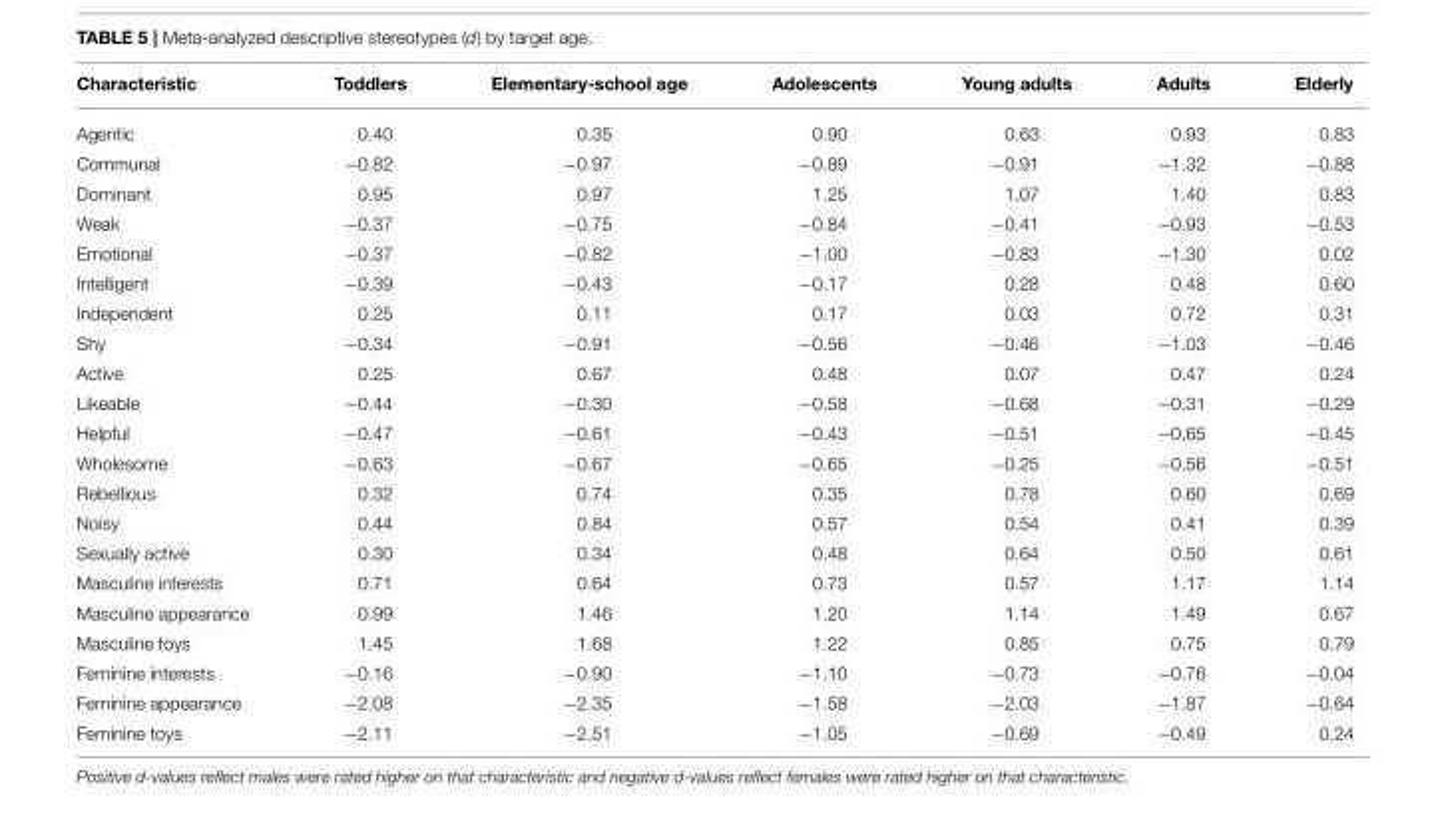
<table><thead><tr><td>Characteristic</td><td>Toddlers</td><td>Elementary-school age</td><td>Adolescents</td><td>Young adults</td><td>Adults</td><td>Elderly</td></tr></thead><tbody><tr><td>Agentic</td><td>0.40</td><td>0.35</td><td>0.90</td><td>0.63</td><td>0.93</td><td>0.83</td></tr><tr><td>Communal</td><td>−0.82</td><td>−0.97</td><td>−0.89</td><td>−0.91</td><td>−1.32</td><td>−0.88</td></tr><tr><td>Dominant</td><td>0.95</td><td>0.97</td><td>1.25</td><td>1.07</td><td>1.40</td><td>0.83</td></tr><tr><td>Weak</td><td>−0.37</td><td>−0.75</td><td>−0.84</td><td>−0.41</td><td>−0.93</td><td>−0.53</td></tr><tr><td>Emotional</td><td>−0.37</td><td>−0.82</td><td>−1.00</td><td>−0.83</td><td>−1.30</td><td>0.02</td></tr><tr><td>Intelligent</td><td>−0.39</td><td>−0.43</td><td>−0.17</td><td>0.28</td><td>0.48</td><td>0.60</td></tr><tr><td>Independent</td><td>0.25</td><td>0.11</td><td>0.17</td><td>0.03</td><td>0.72</td><td>0.31</td></tr><tr><td>Shy</td><td>−0.34</td><td>−0.91</td><td>−0.56</td><td>−0.46</td><td>−1.03</td><td>−0.46</td></tr><tr><td>Active</td><td>0.25</td><td>0.67</td><td>0.48</td><td>0.07</td><td>0.47</td><td>0.24</td></tr><tr><td>Likeable</td><td>−0.44</td><td>−0.30</td><td>−0.58</td><td>−0.68</td><td>−0.31</td><td>−0.29</td></tr><tr><td>Helpful</td><td>−0.47</td><td>−0.61</td><td>−0.43</td><td>−0.51</td><td>−0.65</td><td>−0.45</td></tr><tr><td>Wholesome</td><td>−0.63</td><td>−0.67</td><td>−0.65</td><td>−0.25</td><td>−0.56</td><td>−0.51</td></tr><tr><td>Rebellious</td><td>0.32</td><td>0.74</td><td>0.35</td><td>0.78</td><td>0.60</td><td>0.69</td></tr><tr><td>Noisy</td><td>0.44</td><td>0.84</td><td>0.57</td><td>0.54</td><td>0.41</td><td>0.39</td></tr><tr><td>Sexually active</td><td>0.30</td><td>0.34</td><td>0.48</td><td>0.64</td><td>0.50</td><td>0.61</td></tr><tr><td>Masculine interests</td><td>0.71</td><td>0.64</td><td>0.73</td><td>0.57</td><td>1.17</td><td>1.14</td></tr><tr><td>Masculine appearance</td><td>0.99</td><td>1.46</td><td>1.20</td><td>1.14</td><td>1.49</td><td>0.67</td></tr><tr><td>Masculine toys</td><td>1.45</td><td>1.68</td><td>1.22</td><td>0.85</td><td>0.75</td><td>0.79</td></tr><tr><td>Feminine interests</td><td>−0.16</td><td>−0.90</td><td>−1.10</td><td>−0.73</td><td>−0.76</td><td>−0.04</td></tr><tr><td>Feminine appearance</td><td>−2.08</td><td>−2.35</td><td>−1.58</td><td>−2.03</td><td>−1.87</td><td>−0.64</td></tr><tr><td>Feminine toys</td><td>−2.11</td><td>−2.51</td><td>−1.05</td><td>−0.69</td><td>−0.49</td><td>0.24</td></tr></tbody></table>